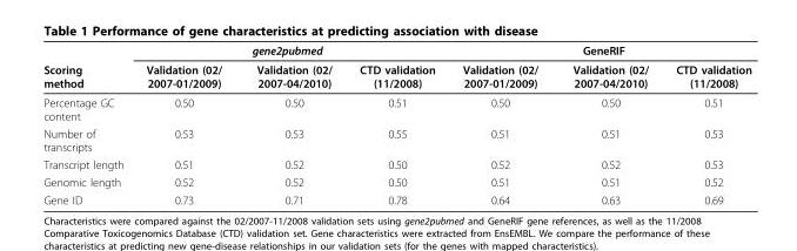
<table><thead><tr><td rowspan="2">Scoring method</td><td colspan="3">gene2pubmed</td><td colspan="3">GeneRIF</td></tr><tr><td>Validation (02/ 2007-01/2009)</td><td>Validation (02/ 2007-04/2010)</td><td>CTD validation (11/2008)</td><td>Validation (02/ 2007-01/2009)</td><td>Validation (02/ 2007-04/2010)</td><td>CTD validation (11/2008)</td></tr></thead><tbody><tr><td>Percentage GC content</td><td>0.50</td><td>0.50</td><td>0.51</td><td>0.50</td><td>0.50</td><td>0.51</td></tr><tr><td>Number of transcripts</td><td>0.53</td><td>0.53</td><td>0.55</td><td>0.51</td><td>0.51</td><td>0.53</td></tr><tr><td>Transcript length</td><td>0.51</td><td>0.52</td><td>0.50</td><td>0.52</td><td>0.52</td><td>0.53</td></tr><tr><td>Genomic length</td><td>0.52</td><td>0.52</td><td>0.50</td><td>0.51</td><td>0.51</td><td>0.52</td></tr><tr><td>Gene ID</td><td>0.73</td><td>0.71</td><td>0.78</td><td>0.64</td><td>0.63</td><td>0.69</td></tr></tbody></table>